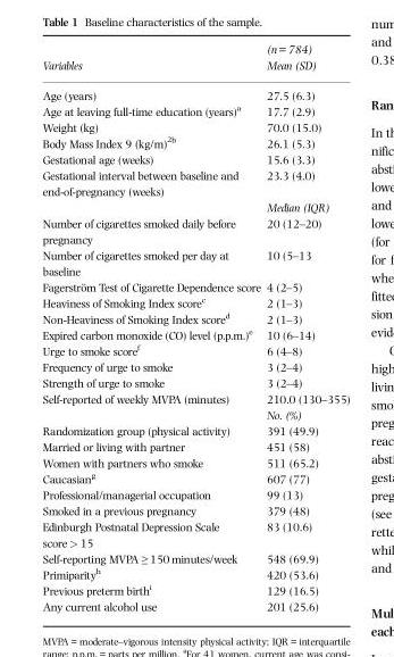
<table><thead><tr><td>Variables</td><td>(n = 784) Mean (SD)</td></tr></thead><tbody><tr><td>Age (years)</td><td>27.5 (6.3)</td></tr><tr><td>Age at leaving full-time education (years)<sup>a</sup></td><td>17.7 (2.9)</td></tr><tr><td>Weight (kg)</td><td>70.0 (15.0)</td></tr><tr><td>Body Mass Index 9 (kg/m)<sup>2</sup>b</td><td>26.1 (5.3)</td></tr><tr><td>Gestational age (weeks)</td><td>15.6 (3.3)</td></tr><tr><td rowspan="2">Gestational interval between baseline and end-of-pregnancy (weeks)</td><td>23.3 (4.0)</td></tr><tr><td>Median (IQR)</td></tr><tr><td>Number of cigarettes smoked daily before pregnancy</td><td>20 (12–20)</td></tr><tr><td>Number of cigarettes smoked per day at baseline</td><td>10 (5–13</td></tr><tr><td>Fagerström Test of Cigarette Dependence score</td><td>4 (2–5)</td></tr><tr><td>Heaviness of Smoking Index score<sup>c</sup></td><td>2 (1–3)</td></tr><tr><td>Non-Heaviness of Smoking Index score<sup>d</sup></td><td>2 (1–3)</td></tr><tr><td>Expired carbon monoxide (CO) level (p.p.m.)<sup>e</sup></td><td>10 (6–14)</td></tr><tr><td>Urge to smoke score<sup>f</sup></td><td>6 (4–8)</td></tr><tr><td>Frequency of urge to smoke</td><td>3 (2–4)</td></tr><tr><td>Strength of urge to smoke</td><td>3 (2–4)</td></tr><tr><td rowspan="2">Self-reported of weekly MVPA (minutes)</td><td>210.0 (130–355)</td></tr><tr><td>No. (%)</td></tr><tr><td>Randomization group (physical activity)</td><td>391 (49.9)</td></tr><tr><td>Married or living with partner</td><td>451 (58)</td></tr><tr><td>Women with partners who smoke</td><td>511 (65.2)</td></tr><tr><td>Caucasian<sup>g</sup></td><td>607 (77)</td></tr><tr><td>Professional/managerial occupation</td><td>99 (13)</td></tr><tr><td>Smoked in a previous pregnancy</td><td>379 (48)</td></tr><tr><td>Edinburgh Postnatal Depression Scale score &gt; 15</td><td>83 (10.6)</td></tr><tr><td>Self-reporting MVPA ≥ 150 minutes/week</td><td>548 (69.9)</td></tr><tr><td>Primiparity<sup>h</sup></td><td>420 (53.6)</td></tr><tr><td>Previous preterm birth<sup>i</sup></td><td>129 (16.5)</td></tr><tr><td>Any current alcohol use</td><td>201 (25.6)</td></tr></tbody></table>